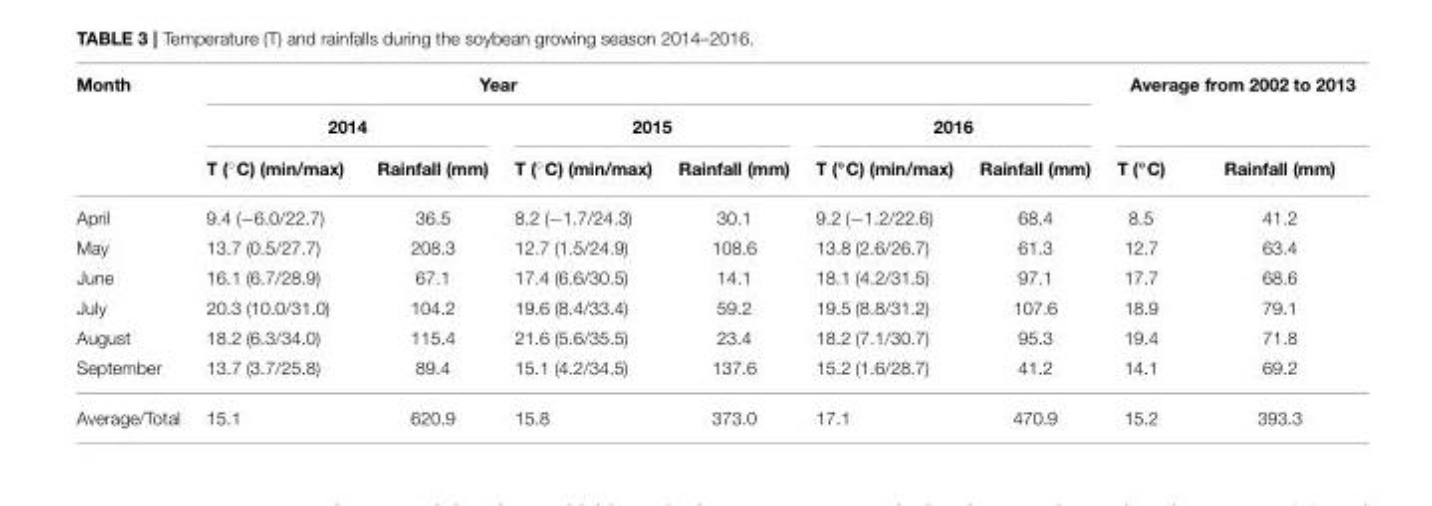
<table><thead><tr><td rowspan="3">Month</td><td colspan="4">Year</td><td></td><td></td><td colspan="2">Average from 2002 to 2013</td></tr><tr><td colspan="2">2014</td><td colspan="2">2015</td><td colspan="2">2016</td><td rowspan="2">T (◦C)</td><td rowspan="2">Rainfall (mm)</td></tr><tr><td>T (◦C) (min/max)</td><td>Rainfall (mm)</td><td>T (◦C) (min/max)</td><td>Rainfall (mm)</td><td>T (◦C) (min/max)</td><td>Rainfall (mm)</td></tr></thead><tbody><tr><td>April</td><td>9.4 (−6.0/22.7)</td><td>36.5</td><td>8.2 (−1.7/24.3)</td><td>30.1</td><td>9.2 (−1.2/22.6)</td><td>68.4</td><td>8.5</td><td>41.2</td></tr><tr><td>May</td><td>13.7 (0.5/27.7)</td><td>208.3</td><td>12.7 (1.5/24.9)</td><td>108.6</td><td>13.8 (2.6/26.7)</td><td>61.3</td><td>12.7</td><td>63.4</td></tr><tr><td>June</td><td>16.1 (6.7/28.9)</td><td>67.1</td><td>17.4 (6.6/30.5)</td><td>14.1</td><td>18.1 (4.2/31.5)</td><td>97.1</td><td>17.7</td><td>68.6</td></tr><tr><td>July</td><td>20.3 (10.0/31.0)</td><td>104.2</td><td>19.6 (8.4/33.4)</td><td>59.2</td><td>19.5 (8.8/31.2)</td><td>107.6</td><td>18.9</td><td>79.1</td></tr><tr><td>August</td><td>18.2 (6.3/34.0)</td><td>115.4</td><td>21.6 (5.6/35.5)</td><td>23.4</td><td>18.2 (7.1/30.7)</td><td>95.3</td><td>19.4</td><td>71.8</td></tr><tr><td>September</td><td>13.7 (3.7/25.8)</td><td>89.4</td><td>15.1 (4.2/34.5)</td><td>137.6</td><td>15.2 (1.6/28.7)</td><td>41.2</td><td>14.1</td><td>69.2</td></tr><tr><td>Average/Total</td><td>15.1</td><td>620.9</td><td>15.8</td><td>373.0</td><td>17.1</td><td>470.9</td><td>15.2</td><td>393.3</td></tr></tbody></table>